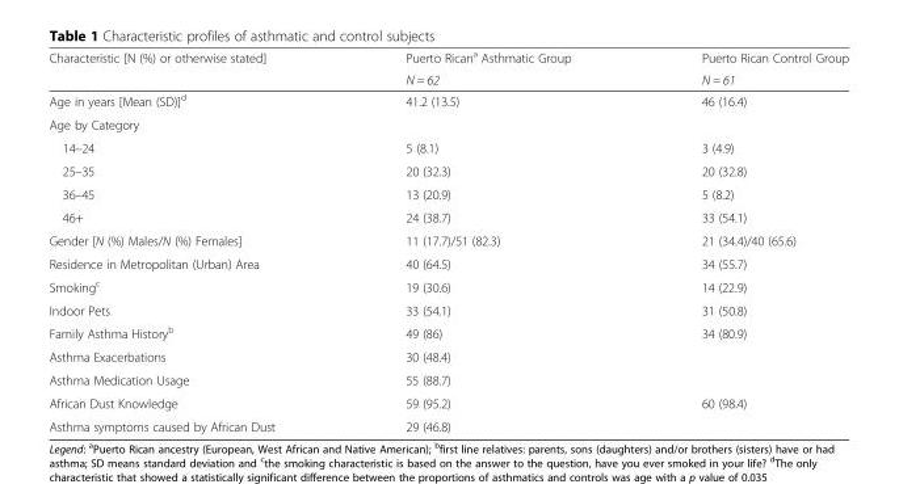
<table><thead><tr><td rowspan="2">Characteristic [N (%) or otherwise stated]</td><td rowspan="2">Puerto Rican<sup>a</sup> Asthmatic Group N = 62</td><td rowspan="2">Puerto Rican Control Group N = 61</td></tr><tr></tr></thead><tbody><tr><td>Age in years [Mean (SD)]<sup>d</sup></td><td>41.2 (13.5)</td><td>46 (16.4)</td></tr><tr><td colspan="3">Age by Category</td></tr><tr><td>14–24</td><td>5 (8.1)</td><td>3 (4.9)</td></tr><tr><td>25–35</td><td>20 (32.3)</td><td>20 (32.8)</td></tr><tr><td>36–45</td><td>13 (20.9)</td><td>5 (8.2)</td></tr><tr><td>46+</td><td>24 (38.7)</td><td>33 (54.1)</td></tr><tr><td>Gender [N (%) Males/N (%) Females]</td><td>11 (17.7)/51 (82.3)</td><td>21 (34.4)/40 (65.6)</td></tr><tr><td>Residence in Metropolitan (Urban) Area</td><td>40 (64.5)</td><td>34 (55.7)</td></tr><tr><td>Smoking<sup>c</sup></td><td>19 (30.6)</td><td>14 (22.9)</td></tr><tr><td>Indoor Pets</td><td>33 (54.1)</td><td>31 (50.8)</td></tr><tr><td>Family Asthma History<sup>b</sup></td><td>49 (86)</td><td>34 (80.9)</td></tr><tr><td>Asthma Exacerbations</td><td>30 (48.4)</td><td></td></tr><tr><td>Asthma Medication Usage</td><td>55 (88.7)</td><td></td></tr><tr><td>African Dust Knowledge</td><td>59 (95.2)</td><td>60 (98.4)</td></tr><tr><td>Asthma symptoms caused by African Dust</td><td>29 (46.8)</td><td></td></tr></tbody></table>